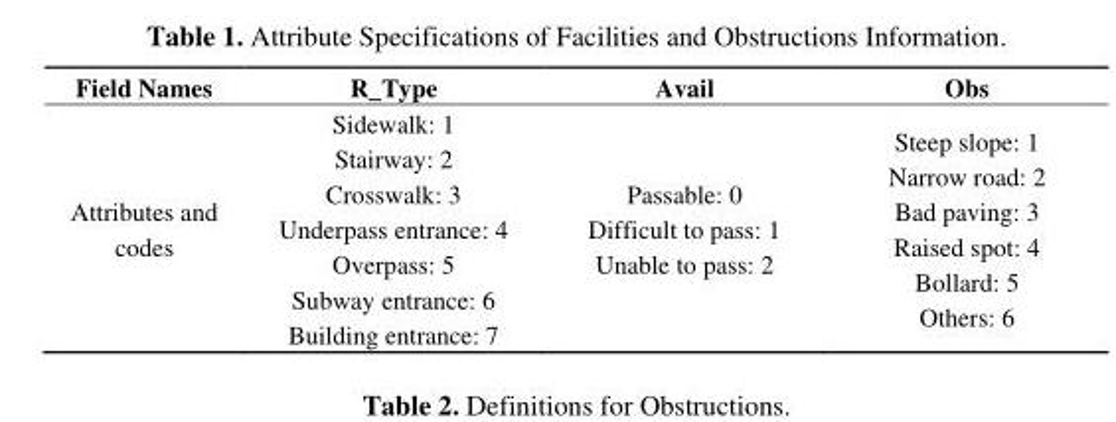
<table><thead><tr><td>Field Names</td><td>R_Type</td><td>Avail</td><td>Obs</td></tr></thead><tbody><tr><td>Attributes and codes</td><td>Sidewalk: 1 Stairway: 2 Crosswalk: 3 Underpass entrance: 4 Overpass: 5 Subway entrance: 6 Building entrance: 7</td><td>Passable: 0 Difficult to pass: 1 Unable to pass: 2</td><td>Steep slope: 1 Narrow road: 2 Bad paving: 3 Raised spot: 4 Bollard: 5 Others: 6</td></tr></tbody></table>